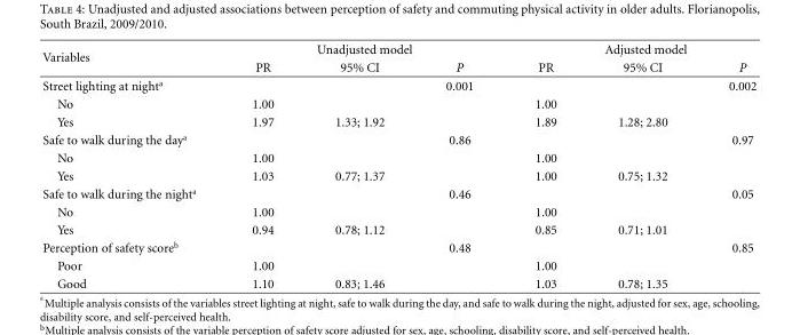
<table><thead><tr><td rowspan="2">Variables</td><td colspan="3">Unadjusted model</td><td colspan="3">Adjusted model</td></tr><tr><td>PR</td><td>95% CI</td><td>P</td><td>PR</td><td>95% CI</td><td>P</td></tr></thead><tbody><tr><td>Street lighting at night<sup>a</sup></td><td></td><td></td><td>0.001</td><td></td><td></td><td>0.002</td></tr><tr><td>No</td><td>1.00</td><td></td><td></td><td>1.00</td><td></td><td></td></tr><tr><td>Yes</td><td>1.97</td><td>1.33; 1.92</td><td></td><td>1.89</td><td>1.28; 2.80</td><td></td></tr><tr><td>Safe to walk during the day<sup>a</sup></td><td></td><td></td><td>0.86</td><td></td><td></td><td>0.97</td></tr><tr><td>No</td><td>1.00</td><td></td><td></td><td>1.00</td><td></td><td></td></tr><tr><td>Yes</td><td>1.03</td><td>0.77; 1.37</td><td></td><td>1.00</td><td>0.75; 1.32</td><td></td></tr><tr><td>Safe to walk during the night<sup>a</sup></td><td></td><td></td><td>0.46</td><td></td><td></td><td>0.05</td></tr><tr><td>No</td><td>1.00</td><td></td><td></td><td>1.00</td><td></td><td></td></tr><tr><td>Yes</td><td>0.94</td><td>0.78; 1.12</td><td></td><td>0.85</td><td>0.71; 1.01</td><td></td></tr><tr><td>Perception of safety score<sup>b</sup></td><td></td><td></td><td>0.48</td><td></td><td></td><td>0.85</td></tr><tr><td>Poor</td><td>1.00</td><td></td><td></td><td>1.00</td><td></td><td></td></tr><tr><td>Good</td><td>1.10</td><td>0.83; 1.46</td><td></td><td>1.03</td><td>0.78; 1.35</td><td></td></tr></tbody></table>